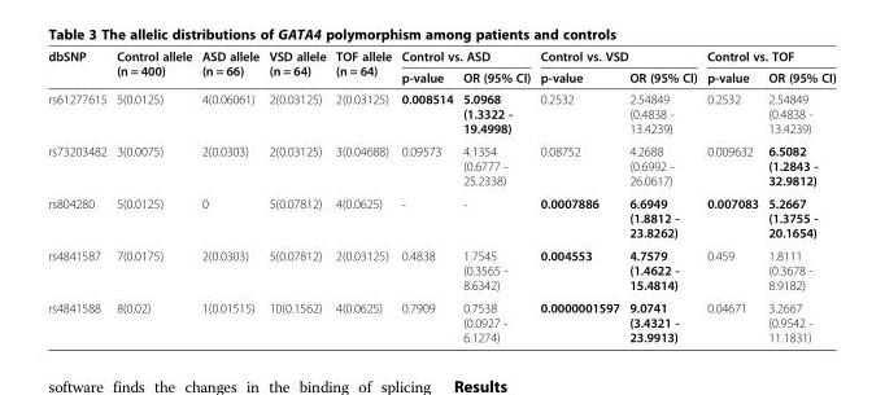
<table><thead><tr><td rowspan="2">dbSNP</td><td rowspan="2">Control allele (n = 400)</td><td rowspan="2">ASD allele (n = 66)</td><td rowspan="2">VSD allele (n = 64)</td><td rowspan="2">TOF allele (n = 64)</td><td colspan="2">Control vs. ASD</td><td colspan="2">Control vs. VSD</td><td colspan="2">Control vs. TOF</td></tr><tr><td>p-value</td><td>OR (95% CI)</td><td>p-value</td><td>OR (95% CI)</td><td>p-value</td><td>OR (95% CI)</td></tr></thead><tbody><tr><td>rs61277615</td><td>5(0.0125)</td><td>4(0.06061)</td><td>2(0.03125)</td><td>2(0.03125)</td><td>0.008514</td><td>5.0968 (1.3322 - 19.4998)</td><td>0.2532</td><td>2.54849 (0.4838 - 13.4239)</td><td>0.2532</td><td>2.54849 (0.4838 - 13.4239)</td></tr><tr><td>rs73203482</td><td>3(0.0075)</td><td>2(0.0303)</td><td>2(0.03125)</td><td>3(0.04688)</td><td>0.09573</td><td>4.1354 (0.6777 - 25.2338)</td><td>0.08752</td><td>4.2688 (0.6992 - 26.0617)</td><td>0.009632</td><td>6.5082 (1.2843 - 32.9812)</td></tr><tr><td>rs804280</td><td>5(0.0125)</td><td>0</td><td>5(0.07812)</td><td>4(0.0625)</td><td>-</td><td>-</td><td>0.0007886</td><td>6.6949 (1.8812 - 23.8262)</td><td>0.007083</td><td>5.2667 (1.3755 - 20.1654)</td></tr><tr><td>rs4841587</td><td>7(0.0175)</td><td>2(0.0303)</td><td>5(0.07812)</td><td>2(0.03125)</td><td>0.4838</td><td>1.7545 (0.3565 - 8.6342)</td><td>0.004553</td><td>4.7579 (1.4622 - 15.4814)</td><td>0.459</td><td>1.8111 (0.3678 - 8.9182)</td></tr><tr><td>rs4841588</td><td>8(0.02)</td><td>1(0.01515)</td><td>10(0.1562)</td><td>4(0.0625)</td><td>0.7909</td><td>0.7538 (0.0927 - 6.1274)</td><td>0.0000001597</td><td>9.0741 (3.4321 - 23.9913)</td><td>0.04671</td><td>3.2667 (0.9542 - 11.1831)</td></tr></tbody></table>